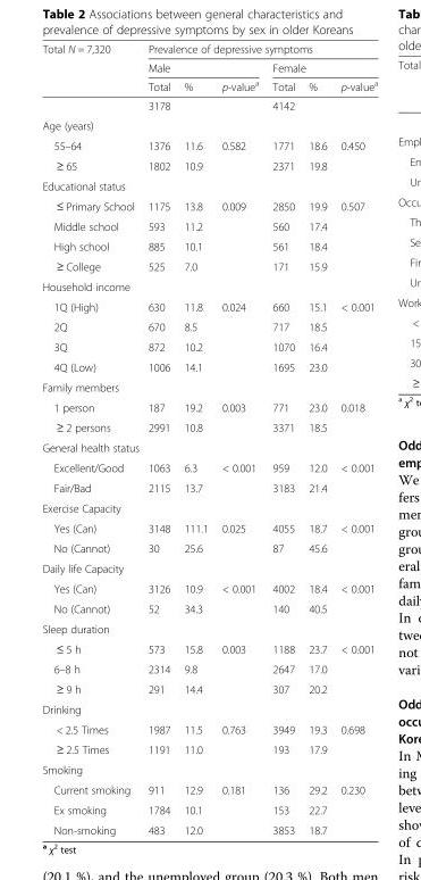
<table><thead><tr><td rowspan="3">Total N = 7,320</td><td colspan="6">Prevalence of depressive symptoms</td></tr><tr><td colspan="3">Male</td><td colspan="3">Female</td></tr><tr><td>Total</td><td>%</td><td>p-value<sup>a</sup></td><td>Total</td><td>%</td><td>p-value<sup>a</sup></td></tr></thead><tbody><tr><td></td><td>3178</td><td></td><td></td><td>4142</td><td></td><td></td></tr><tr><td colspan="7">Age (years)</td></tr><tr><td>55–64</td><td>1376</td><td>11.6</td><td>0.582</td><td>1771</td><td>18.6</td><td>0.450</td></tr><tr><td>≥ 65</td><td>1802</td><td>10.9</td><td></td><td>2371</td><td>19.8</td><td></td></tr><tr><td colspan="7">Educational status</td></tr><tr><td>≤ Primary School</td><td>1175</td><td>13.8</td><td>0.009</td><td>2850</td><td>19.9</td><td>0.507</td></tr><tr><td>Middle school</td><td>593</td><td>11.2</td><td></td><td>560</td><td>17.4</td><td></td></tr><tr><td>High school</td><td>885</td><td>10.1</td><td></td><td>561</td><td>18.4</td><td></td></tr><tr><td>≥ College</td><td>525</td><td>7.0</td><td></td><td>171</td><td>15.9</td><td></td></tr><tr><td colspan="7">Household income</td></tr><tr><td>1Q (High)</td><td>630</td><td>11.8</td><td>0.024</td><td>660</td><td>15.1</td><td>&lt; 0.001</td></tr><tr><td>2Q</td><td>670</td><td>8.5</td><td></td><td>717</td><td>18.5</td><td></td></tr><tr><td>3Q</td><td>872</td><td>10.2</td><td></td><td>1070</td><td>16.4</td><td></td></tr><tr><td>4Q (Low)</td><td>1006</td><td>14.1</td><td></td><td>1695</td><td>23.0</td><td></td></tr><tr><td colspan="7">Family members</td></tr><tr><td>1 person</td><td>187</td><td>19.2</td><td>0.003</td><td>771</td><td>23.0</td><td>0.018</td></tr><tr><td>≥ 2 persons</td><td>2991</td><td>10.8</td><td></td><td>3371</td><td>18.5</td><td></td></tr><tr><td colspan="7">General health status</td></tr><tr><td>Excellent/Good</td><td>1063</td><td>6.3</td><td>&lt; 0.001</td><td>959</td><td>12.0</td><td>&lt; 0.001</td></tr><tr><td>Fair/Bad</td><td>2115</td><td>13.7</td><td></td><td>3183</td><td>21.4</td><td></td></tr><tr><td colspan="7">Exercise Capacity</td></tr><tr><td>Yes (Can)</td><td>3148</td><td>111.1</td><td>0.025</td><td>4055</td><td>18.7</td><td>&lt; 0.001</td></tr><tr><td>No (Cannot)</td><td>30</td><td>25.6</td><td></td><td>87</td><td>45.6</td><td></td></tr><tr><td colspan="7">Daily life Capacity</td></tr><tr><td>Yes (Can)</td><td>3126</td><td>10.9</td><td>&lt; 0.001</td><td>4002</td><td>18.4</td><td>&lt; 0.001</td></tr><tr><td>No (Cannot)</td><td>52</td><td>34.3</td><td></td><td>140</td><td>40.5</td><td></td></tr><tr><td colspan="7">Sleep duration</td></tr><tr><td>≤ 5 h</td><td>573</td><td>15.8</td><td>0.003</td><td>1188</td><td>23.7</td><td>&lt; 0.001</td></tr><tr><td>6–8 h</td><td>2314</td><td>9.8</td><td></td><td>2647</td><td>17.0</td><td></td></tr><tr><td>≥ 9 h</td><td>291</td><td>14.4</td><td></td><td>307</td><td>20.2</td><td></td></tr><tr><td colspan="7">Drinking</td></tr><tr><td>&lt; 2.5 Times</td><td>1987</td><td>11.5</td><td>0.763</td><td>3949</td><td>19.3</td><td>0.698</td></tr><tr><td>≥ 2.5 Times</td><td>1191</td><td>11.0</td><td></td><td>193</td><td>17.9</td><td></td></tr><tr><td colspan="7">Smoking</td></tr><tr><td>Current smoking</td><td>911</td><td>12.9</td><td>0.181</td><td>136</td><td>29.2</td><td>0.230</td></tr><tr><td>Ex smoking</td><td>1784</td><td>10.1</td><td></td><td>153</td><td>22.7</td><td></td></tr><tr><td>Non-smoking</td><td>483</td><td>12.0</td><td></td><td>3853</td><td>18.7</td><td></td></tr></tbody></table>